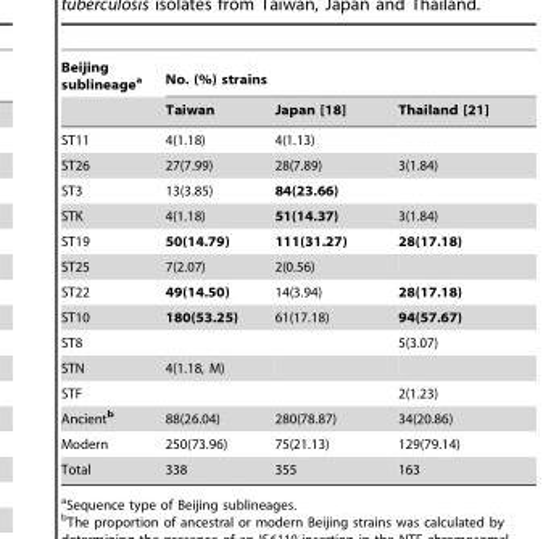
<table><thead><tr><td rowspan="2">Beijing sublineage<sup>a</sup></td><td colspan="3">No. (%) strains</td></tr><tr><td>Taiwan</td><td>Japan [18]</td><td>Thailand [21]</td></tr></thead><tbody><tr><td>ST11</td><td>4(1.18)</td><td>4(1.13)</td><td></td></tr><tr><td>ST26</td><td>27(7.99)</td><td>28(7.89)</td><td>3(1.84)</td></tr><tr><td>ST3</td><td>13(3.85)</td><td>84(23.66)</td><td></td></tr><tr><td>STK</td><td>4(1.18)</td><td>51(14.37)</td><td>3(1.84)</td></tr><tr><td>ST19</td><td>50(14.79)</td><td>111(31.27)</td><td>28(17.18)</td></tr><tr><td>ST25</td><td>7(2.07)</td><td>2(0.56)</td><td></td></tr><tr><td>ST22</td><td>49(14.50)</td><td>14(3.94)</td><td>28(17.18)</td></tr><tr><td>ST10</td><td>180(53.25)</td><td>61(17.18)</td><td>94(57.67)</td></tr><tr><td>ST8</td><td></td><td></td><td>5(3.07)</td></tr><tr><td>STN</td><td>4(1.18, M)</td><td></td><td></td></tr><tr><td>STF</td><td></td><td></td><td>2(1.23)</td></tr><tr><td>Ancient<sup>b</sup></td><td>88(26.04)</td><td>280(78.87)</td><td>34(20.86)</td></tr><tr><td>Modern</td><td>250(73.96)</td><td>75(21.13)</td><td>129(79.14)</td></tr><tr><td>Total</td><td>338</td><td>355</td><td>163</td></tr></tbody></table>